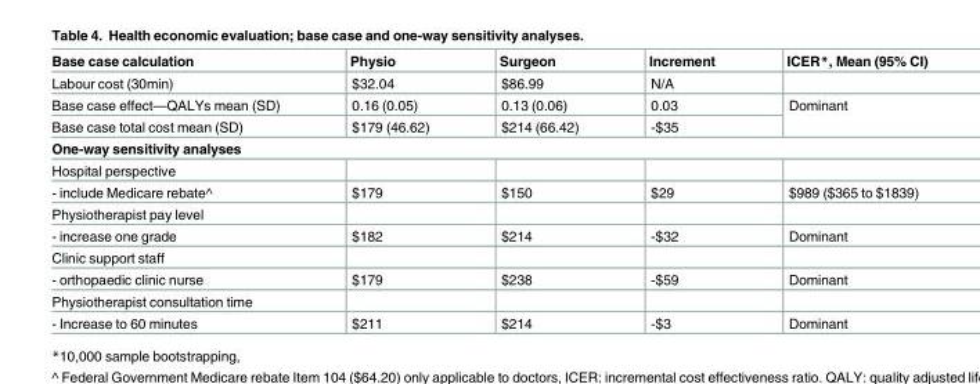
<table><thead><tr><td>Base case calculation</td><td>Physio</td><td>Surgeon</td><td>Increment</td><td>ICER*, Mean (95% CI)</td></tr></thead><tbody><tr><td>Labour cost (30min)</td><td>$32.04</td><td>$86.99</td><td>N/A</td><td></td></tr><tr><td>Base case effect—QALYs mean (SD)</td><td>0.16 (0.05)</td><td>0.13 (0.06)</td><td>0.03</td><td rowspan="2">Dominant</td></tr><tr><td>Base case total cost mean (SD)</td><td>$179 (46.62)</td><td>$214 (66.42)</td><td>-$35</td></tr><tr><td colspan="5">One-way sensitivity analyses</td></tr><tr><td colspan="5">Hospital perspective</td></tr><tr><td>- include Medicare rebate^</td><td>$179</td><td>$150</td><td>$29</td><td>$989 ($365 to $1839)</td></tr><tr><td colspan="5">Physiotherapist pay level</td></tr><tr><td>- increase one grade</td><td>$182</td><td>$214</td><td>-$32</td><td>Dominant</td></tr><tr><td colspan="5">Clinic support staff</td></tr><tr><td>- orthopaedic clinic nurse</td><td>$179</td><td>$238</td><td>-$59</td><td>Dominant</td></tr><tr><td colspan="5">Physiotherapist consultation time</td></tr><tr><td>- Increase to 60 minutes</td><td>$211</td><td>$214</td><td>-$3</td><td>Dominant</td></tr></tbody></table>